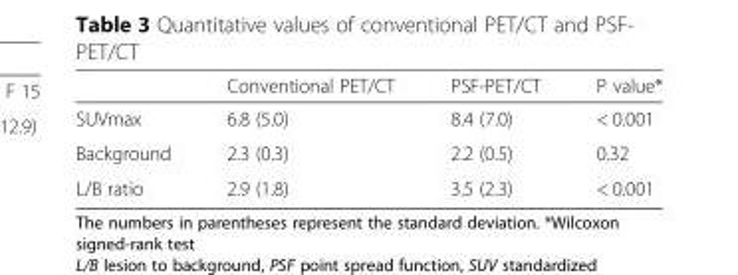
<table><thead><tr><td></td><td>Conventional PET/CT</td><td>PSF-PET/CT</td><td>P value*</td></tr></thead><tbody><tr><td>SUVmax</td><td>6.8 (5.0)</td><td>8.4 (7.0)</td><td>&lt; 0.001</td></tr><tr><td>Background</td><td>2.3 (0.3)</td><td>2.2 (0.5)</td><td>0.32</td></tr><tr><td>L/B ratio</td><td>2.9 (1.8)</td><td>3.5 (2.3)</td><td>&lt; 0.001</td></tr></tbody></table>